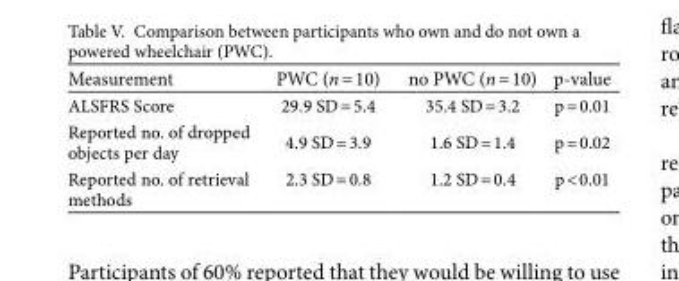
<table><thead><tr><td>Measurement</td><td>PWC (n = 10)</td><td>no PWC (n = 10)</td><td>p-value</td></tr></thead><tbody><tr><td>ALSFRS Score</td><td>29.9 SD = 5.4</td><td>35.4 SD = 3.2</td><td>p = 0.01</td></tr><tr><td>Reported no. of dropped objects per day</td><td>4.9 SD = 3.9</td><td>1.6 SD = 1.4</td><td>p = 0.02</td></tr><tr><td>Reported no. of retrieval methods</td><td>2.3 SD = 0.8</td><td>1.2 SD = 0.4</td><td>p &lt; 0.01</td></tr></tbody></table>